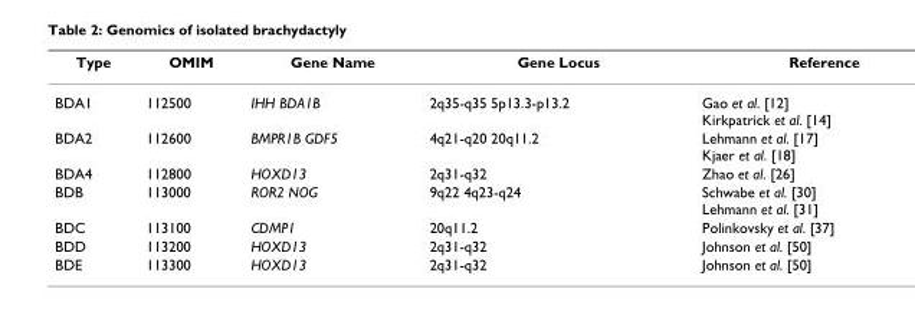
<table><thead><tr><td>Type</td><td>OMIM</td><td>Gene Name</td><td>Gene Locus</td><td>Reference</td></tr></thead><tbody><tr><td>BDA1</td><td>112500</td><td>IHH BDA1B</td><td>2q35-q35 5p13.3-p13.2</td><td>Gao et al. [12] Kirkpatrick et al. [14]</td></tr><tr><td>BDA2</td><td>112600</td><td>BMPR1B GDF5</td><td>4q21-q20 20q11.2</td><td>Lehmann et al. [17] Kjaer et al. [18]</td></tr><tr><td>BDA4</td><td>112800</td><td>HOXD13</td><td>2q31-q32</td><td>Zhao et al. [26]</td></tr><tr><td>BDB</td><td>113000</td><td>ROR2 NOG</td><td>9q22 4q23-q24</td><td>Schwabe et al. [30] Lehmann et al. [31]</td></tr><tr><td>BDC</td><td>113100</td><td>CDMP1</td><td>20q11.2</td><td>Polinkovsky et al. [37]</td></tr><tr><td>BDD</td><td>113200</td><td>HOXD13</td><td>2q31-q32</td><td>Johnson et al. [50]</td></tr><tr><td>BDE</td><td>113300</td><td>HOXD13</td><td>2q31-q32</td><td>Johnson et al. [50]</td></tr></tbody></table>